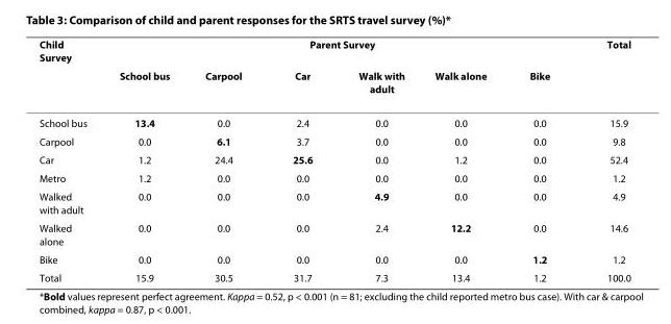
<table><thead><tr><td rowspan="2">Child Survey</td><td colspan="6">Parent Survey</td><td rowspan="2">Total</td></tr><tr><td>School bus</td><td>Carpool</td><td>Car</td><td>Walk with adult</td><td>Walk alone</td><td>Bike</td></tr></thead><tbody><tr><td>School bus</td><td>13.4</td><td>0.0</td><td>2.4</td><td>0.0</td><td>0.0</td><td>0.0</td><td>15.9</td></tr><tr><td>Carpool</td><td>0.0</td><td>6.1</td><td>3.7</td><td>0.0</td><td>0.0</td><td>0.0</td><td>9.8</td></tr><tr><td>Car</td><td>1.2</td><td>24.4</td><td>25.6</td><td>0.0</td><td>1.2</td><td>0.0</td><td>52.4</td></tr><tr><td>Metro</td><td>1.2</td><td>0.0</td><td>0.0</td><td>0.0</td><td>0.0</td><td>0.0</td><td>1.2</td></tr><tr><td>Walked with adult</td><td>0.0</td><td>0.0</td><td>0.0</td><td>4.9</td><td>0.0</td><td>0.0</td><td>4.9</td></tr><tr><td>Walked alone</td><td>0.0</td><td>0.0</td><td>0.0</td><td>2.4</td><td>12.2</td><td>0.0</td><td>14.6</td></tr><tr><td>Bike</td><td>0.0</td><td>0.0</td><td>0.0</td><td>0.0</td><td>0.0</td><td>1.2</td><td>1.2</td></tr><tr><td>Total</td><td>15.9</td><td>30.5</td><td>31.7</td><td>7.3</td><td>13.4</td><td>1.2</td><td>100.0</td></tr></tbody></table>